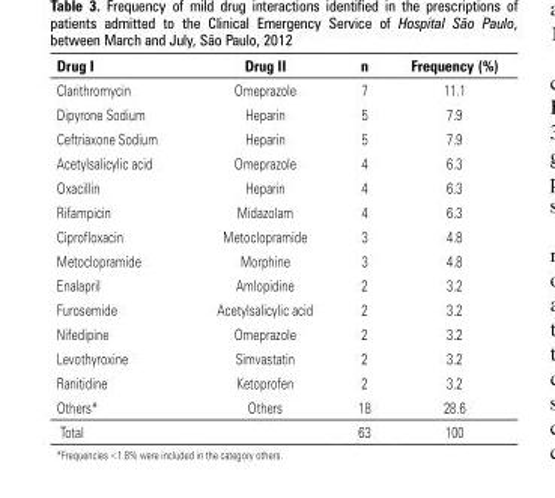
<table><thead><tr><td>Drug I</td><td>Drug II</td><td>n</td><td>Frequency (%)</td></tr></thead><tbody><tr><td>Clarithromycin</td><td>Omeprazole</td><td>7</td><td>11.1</td></tr><tr><td>Dipyrone Sodium</td><td>Heparin</td><td>5</td><td>7.9</td></tr><tr><td>Ceftriaxone Sodium</td><td>Heparin</td><td>5</td><td>7.9</td></tr><tr><td>Acetylsalicylic acid</td><td>Omeprazole</td><td>4</td><td>6.3</td></tr><tr><td>Oxacillin</td><td>Heparin</td><td>4</td><td>6.3</td></tr><tr><td>Rifampicin</td><td>Midazolam</td><td>4</td><td>6.3</td></tr><tr><td>Ciprofloxacin</td><td>Metoclopramide</td><td>3</td><td>4.8</td></tr><tr><td>Metoclopramide</td><td>Morphine</td><td>3</td><td>4.8</td></tr><tr><td>Enalapril</td><td>Amlopidine</td><td>2</td><td>3.2</td></tr><tr><td>Furosemide</td><td>Acetylsalicylic acid</td><td>2</td><td>3.2</td></tr><tr><td>Nifedipine</td><td>Omeprazole</td><td>2</td><td>3.2</td></tr><tr><td>Levothyroxine</td><td>Simvastatin</td><td>2</td><td>3.2</td></tr><tr><td>Ranitidine</td><td>Ketoprofen</td><td>2</td><td>3.2</td></tr><tr><td>Others*</td><td>Others</td><td>18</td><td>28.6</td></tr><tr><td>Total</td><td></td><td>63</td><td>100</td></tr></tbody></table>